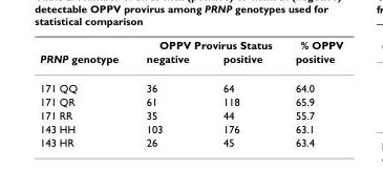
<table><thead><tr><td rowspan="2">PRNP genotype</td><td colspan="2">OPPV Provirus Status</td><td rowspan="2">% OPPV positive</td></tr><tr><td>negative</td><td>positive</td></tr></thead><tbody><tr><td>171 QQ</td><td>36</td><td>64</td><td>64.0</td></tr><tr><td>171 QR</td><td>61</td><td>118</td><td>65.9</td></tr><tr><td>171 RR</td><td>35</td><td>44</td><td>55.7</td></tr><tr><td>143 HH</td><td>103</td><td>176</td><td>63.1</td></tr><tr><td>143 HR</td><td>26</td><td>45</td><td>63.4</td></tr></tbody></table>